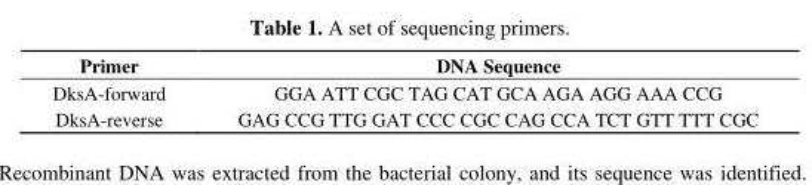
<table><thead><tr><td>Primer</td><td>DNA Sequence</td></tr></thead><tbody><tr><td>DksA-forward</td><td>GGA ATT CGC TAG CAT GCA AGA AGG AAA CCG</td></tr><tr><td>DksA-reverse</td><td>GAG CCG TTG GAT CCC CGC CAG CCA TCT GTT TTT CGC</td></tr></tbody></table>